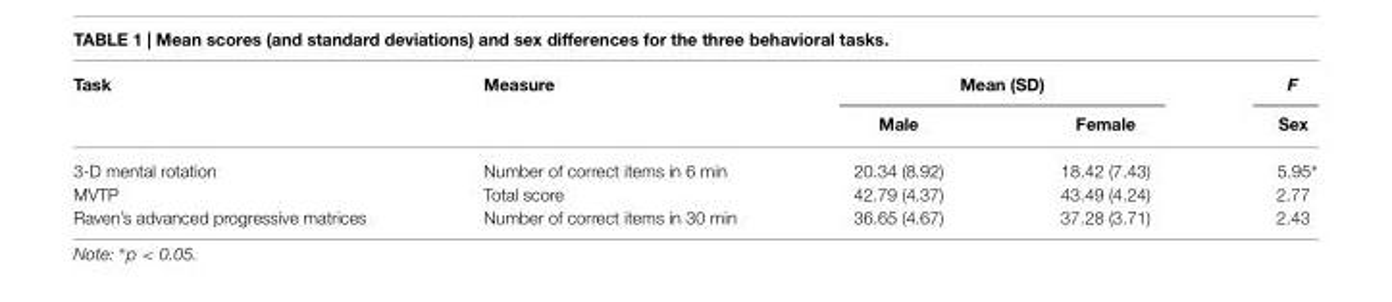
<table><thead><tr><td rowspan="2">Task</td><td rowspan="2">Measure</td><td colspan="2">Mean (SD)</td><td rowspan="2">F Sex</td></tr><tr><td>Male</td><td>Female</td></tr></thead><tbody><tr><td>3-D mental rotation</td><td>Number of correct items in 6 min</td><td>20.34 (8.92)</td><td>18.42 (7.43)</td><td>5.95∗</td></tr><tr><td>MVTP</td><td>Total score</td><td>42.79 (4.37)</td><td>43.49 (4.24)</td><td>2.77</td></tr><tr><td>Raven’s advanced progressive matrices</td><td>Number of correct items in 30 min</td><td>36.65 (4.67)</td><td>37.28 (3.71)</td><td>2.43</td></tr></tbody></table>